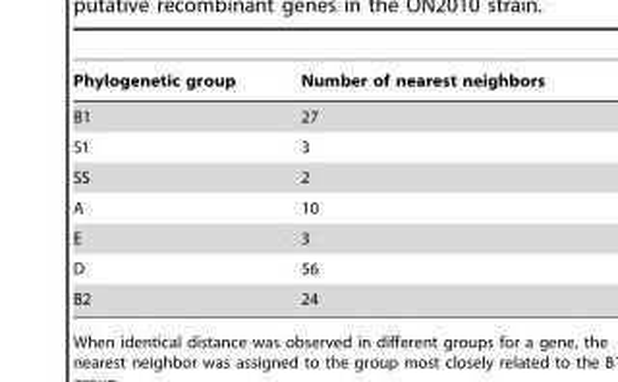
<table><thead><tr><td>Phylogenetic group</td><td>Number of nearest neighbors</td></tr></thead><tbody><tr><td>B1</td><td>27</td></tr><tr><td>S1</td><td>3</td></tr><tr><td>SS</td><td>2</td></tr><tr><td>A</td><td>10</td></tr><tr><td>E</td><td>3</td></tr><tr><td>D</td><td>56</td></tr><tr><td>B2</td><td>24</td></tr></tbody></table>